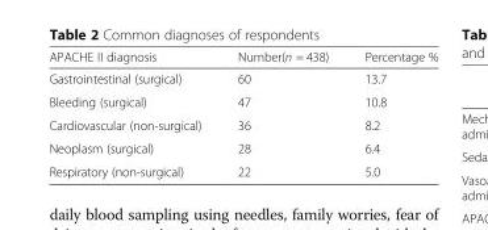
<table><thead><tr><td>APACHE II diagnosis</td><td>Number(n = 438)</td><td>Percentage %</td></tr></thead><tbody><tr><td>Gastrointestinal (surgical)</td><td>60</td><td>13.7</td></tr><tr><td>Bleeding (surgical)</td><td>47</td><td>10.8</td></tr><tr><td>Cardiovascular (non-surgical)</td><td>36</td><td>8.2</td></tr><tr><td>Neoplasm (surgical)</td><td>28</td><td>6.4</td></tr><tr><td>Respiratory (non-surgical)</td><td>22</td><td>5.0</td></tr></tbody></table>